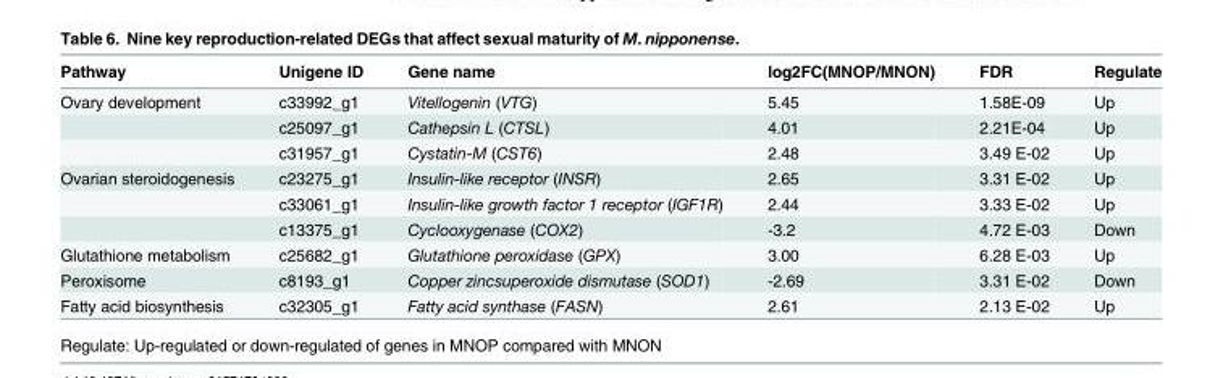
<table><thead><tr><td>Pathway</td><td>Unigene ID</td><td>Gene name</td><td>log2FC(MNOP/MNON)</td><td>FDR</td><td>Regulate</td></tr></thead><tbody><tr><td rowspan="3">Ovary development</td><td>c33992_g1</td><td>Vitellogenin (VTG)</td><td>5.45</td><td>1.58E-09</td><td>Up</td></tr><tr><td>c25097_g1</td><td>Cathepsin L (CTSL)</td><td>4.01</td><td>2.21E-04</td><td>Up</td></tr><tr><td>c31957_g1</td><td>Cystatin-M (CST6)</td><td>2.48</td><td>3.49 E-02</td><td>Up</td></tr><tr><td rowspan="3">Ovarian steroidogenesis</td><td>c23275_g1</td><td>Insulin-like receptor (INSR)</td><td>2.65</td><td>3.31 E-02</td><td>Up</td></tr><tr><td>c33061_g1</td><td>Insulin-like growth factor 1 receptor (IGF1R)</td><td>2.44</td><td>3.33 E-02</td><td>Up</td></tr><tr><td>c13375_g1</td><td>Cyclooxygenase (COX2)</td><td>-3.2</td><td>4.72 E-03</td><td>Down</td></tr><tr><td>Glutathione metabolism</td><td>c25682_g1</td><td>Glutathione peroxidase (GPX)</td><td>3.00</td><td>6.28 E-03</td><td>Up</td></tr><tr><td>Peroxisome</td><td>c8193_g1</td><td>Copper zincsuperoxide dismutase (SOD1)</td><td>-2.69</td><td>3.31 E-02</td><td>Down</td></tr><tr><td>Fatty acid biosynthesis</td><td>c32305_g1</td><td>Fatty acid synthase (FASN)</td><td>2.61</td><td>2.13 E-02</td><td>Up</td></tr></tbody></table>